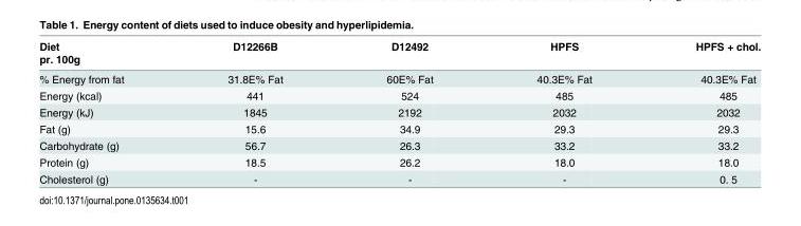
<table><thead><tr><td rowspan="2">Diet pr. 100g</td><td rowspan="2">D12266B</td><td rowspan="2">D12492</td><td rowspan="2">HPFS</td><td rowspan="2">HPFS + chol.</td></tr><tr></tr></thead><tbody><tr><td>% Energy from fat</td><td>31.8E% Fat</td><td>60E% Fat</td><td>40.3E% Fat</td><td>40.3E% Fat</td></tr><tr><td>Energy (kcal)</td><td>441</td><td>524</td><td>485</td><td>485</td></tr><tr><td>Energy (kJ)</td><td>1845</td><td>2192</td><td>2032</td><td>2032</td></tr><tr><td>Fat (g)</td><td>15.6</td><td>34.9</td><td>29.3</td><td>29.3</td></tr><tr><td>Carbohydrate (g)</td><td>56.7</td><td>26.3</td><td>33.2</td><td>33.2</td></tr><tr><td>Protein (g)</td><td>18.5</td><td>26.2</td><td>18.0</td><td>18.0</td></tr><tr><td>Cholesterol (g)</td><td>-</td><td>-</td><td>-</td><td>0. 5</td></tr></tbody></table>